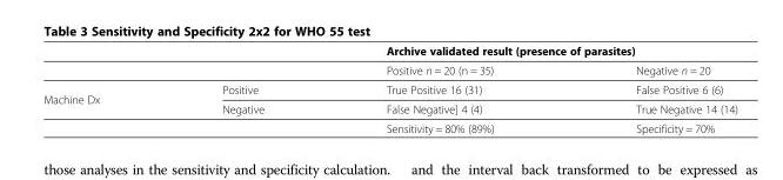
<table><thead><tr><td rowspan="2"></td><td rowspan="2"></td><td colspan="2">Archive validated result (presence of parasites)</td></tr><tr><td>Positive n = 20 (n = 35)</td><td>Negative n = 20</td></tr></thead><tbody><tr><td rowspan="3">Machine Dx</td><td>Positive</td><td>True Positive 16 (31)</td><td>False Positive 6 (6)</td></tr><tr><td>Negative</td><td>False Negative] 4 (4)</td><td>True Negative 14 (14)</td></tr><tr><td></td><td>Sensitivity = 80% (89%)</td><td>Specificity = 70%</td></tr></tbody></table>